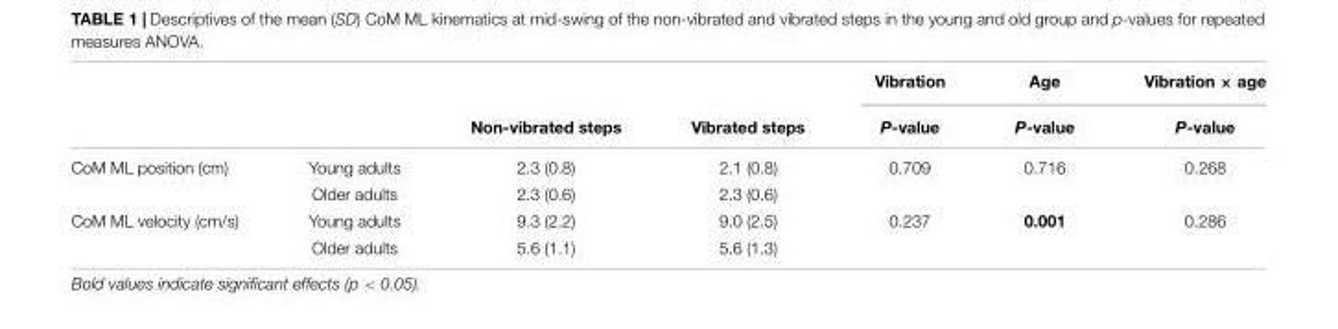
<table><thead><tr><td rowspan="2"></td><td rowspan="2"></td><td rowspan="2">Non-vibrated steps</td><td rowspan="2">Vibrated steps</td><td rowspan="2">Vibration P-value</td><td rowspan="2">Age P-value</td><td rowspan="2">Vibration × age P-value</td></tr><tr></tr></thead><tbody><tr><td rowspan="2">CoM ML position (cm)</td><td>Young adults</td><td>2.3 (0.8)</td><td>2.1 (0.8)</td><td>0.709</td><td>0.716</td><td>0.268</td></tr><tr><td>Older adults</td><td>2.3 (0.6)</td><td>2.3 (0.6)</td><td></td><td></td><td></td></tr><tr><td rowspan="2">CoM ML velocity (cm/s)</td><td>Young adults</td><td>9.3 (2.2)</td><td>9.0 (2.5)</td><td>0.237</td><td>0.001</td><td>0.286</td></tr><tr><td>Older adults</td><td>5.6 (1.1)</td><td>5.6 (1.3)</td><td></td><td></td><td></td></tr></tbody></table>